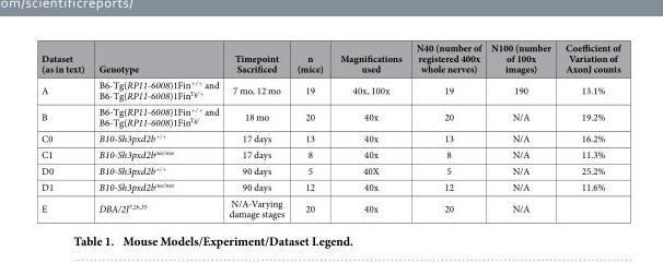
<table><thead><tr><td>Dataset (as in text)</td><td>Genotype</td><td>Timepoint Sacrificed</td><td>n (mice)</td><td>Magnifications used</td><td>N40 (number of registered 400x whole nerves)</td><td>N100 (number of 100x images)</td><td>Coefficient of Variation of AxonJ counts</td></tr></thead><tbody><tr><td>A</td><td>B6-Tg(RP11-6008)1Fin<sup>+/+</sup> and B6-Tg(RP11-6008)1Fin<sup>Tg/+</sup></td><td>7 mo, 12 mo</td><td>19</td><td>40x, 100x</td><td>19</td><td>190</td><td>13.1%</td></tr><tr><td>B</td><td>B6-Tg(RP11-6008)1Fin<sup>+/+</sup> and B6-Tg(RP11-6008)1Fin<sup>Tg/</sup></td><td>18 mo</td><td>20</td><td>40x</td><td>20</td><td>N/A</td><td>19.2%</td></tr><tr><td>C0</td><td>B10-Sh3pxd2b<sup>+/+</sup></td><td>17 days</td><td>13</td><td>40x</td><td>13</td><td>N/A</td><td>16.2%</td></tr><tr><td>C1</td><td>B10-Sh3pxd2b<sup>nee/nee</sup></td><td>17 days</td><td>8</td><td>40x</td><td>8</td><td>N/A</td><td>11.3%</td></tr><tr><td>D0</td><td>B10-Sh3pxd2b<sup>+/+</sup></td><td>90 days</td><td>5</td><td>40X</td><td>5</td><td>N/A</td><td>25.2%</td></tr><tr><td>D1</td><td>B10-Sh3pxd2b<sup>nee/nee</sup></td><td>90 days</td><td>12</td><td>40x</td><td>12</td><td>N/A</td><td>11.6%</td></tr><tr><td>E</td><td>DBA/2J<sup>7</sup>,<sup>26</sup>,<sup>35</sup></td><td>N/A-Varying damage stages</td><td>20</td><td>40x</td><td>20</td><td>N/A</td><td></td></tr></tbody></table>